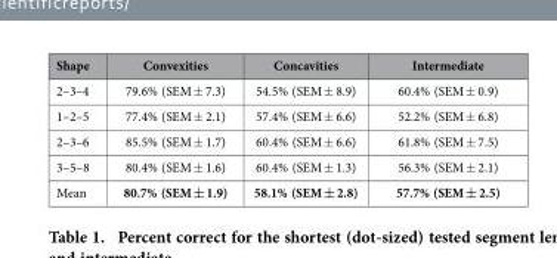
<table><thead><tr><td>Shape</td><td>Convexities</td><td>Concavities</td><td>Intermediate</td></tr></thead><tbody><tr><td>2–3–4</td><td>79.6% (SEM ± 7.3)</td><td>54.5% (SEM ± 8.9)</td><td>60.4% (SEM ± 0.9)</td></tr><tr><td>1–2–5</td><td>77.4% (SEM ± 2.1)</td><td>57.4% (SEM ± 6.6)</td><td>52.2% (SEM ± 6.8)</td></tr><tr><td>2–3–6</td><td>85.5% (SEM ± 1.7)</td><td>60.4% (SEM ± 6.6)</td><td>61.8% (SEM ± 7.5)</td></tr><tr><td>3–5–8</td><td>80.4% (SEM ± 1.6)</td><td>60.4% (SEM ± 1.3)</td><td>56.3% (SEM ± 2.1)</td></tr><tr><td>Mean</td><td>80.7% (SEM ± 1.9)</td><td>58.1% (SEM ± 2.8)</td><td>57.7% (SEM ± 2.5)</td></tr></tbody></table>